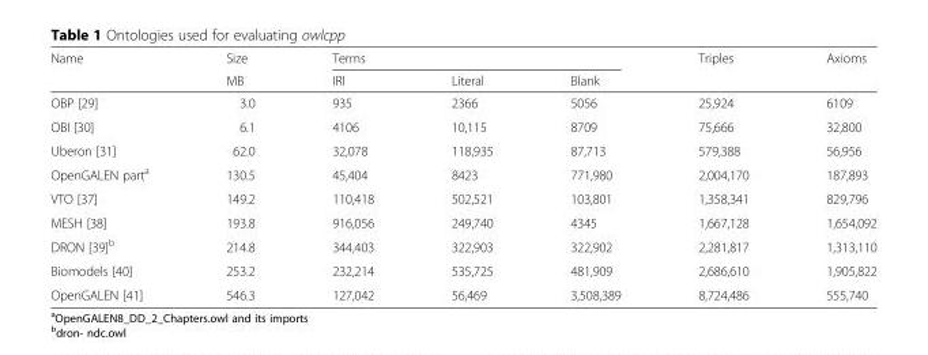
<table><thead><tr><td rowspan="2">Name</td><td rowspan="2">Size MB</td><td colspan="3">Terms</td><td rowspan="2">Triples</td><td rowspan="2">Axioms</td></tr><tr><td>IRI</td><td>Literal</td><td>Blank</td></tr></thead><tbody><tr><td>OBP [29]</td><td>3.0</td><td>935</td><td>2366</td><td>5056</td><td>25,924</td><td>6109</td></tr><tr><td>OBI [30]</td><td>6.1</td><td>4106</td><td>10,115</td><td>8709</td><td>75,666</td><td>32,800</td></tr><tr><td>Uberon [31]</td><td>62.0</td><td>32,078</td><td>118,935</td><td>87,713</td><td>579,388</td><td>56,956</td></tr><tr><td>OpenGALEN part<sup>a</sup></td><td>130.5</td><td>45,404</td><td>8423</td><td>771,980</td><td>2,004,170</td><td>187,893</td></tr><tr><td>VTO [37]</td><td>149.2</td><td>110,418</td><td>502,521</td><td>103,801</td><td>1,358,341</td><td>829,796</td></tr><tr><td>MESH [38]</td><td>193.8</td><td>916,056</td><td>249,740</td><td>4345</td><td>1,667,128</td><td>1,654,092</td></tr><tr><td>DRON [39]<sup>b</sup></td><td>214.8</td><td>344,403</td><td>322,903</td><td>322,902</td><td>2,281,817</td><td>1,313,110</td></tr><tr><td>Biomodels [40]</td><td>253.2</td><td>232,214</td><td>535,725</td><td>481,909</td><td>2,686,610</td><td>1,905,822</td></tr><tr><td>OpenGALEN [41]</td><td>546.3</td><td>127,042</td><td>56,469</td><td>3,508,389</td><td>8,724,486</td><td>555,740</td></tr></tbody></table>